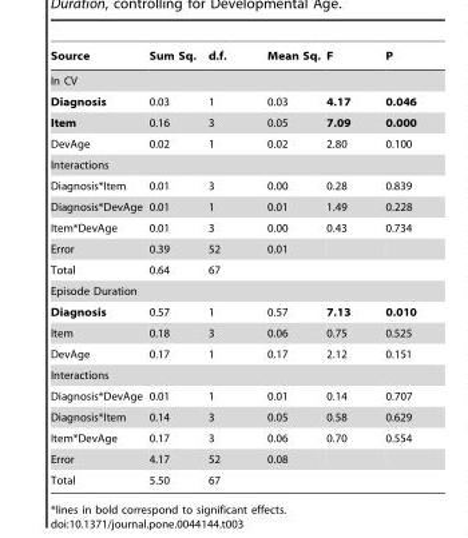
<table><thead><tr><td>Source</td><td>Sum Sq.</td><td>d.f.</td><td>Mean Sq.</td><td>F</td><td>P</td></tr></thead><tbody><tr><td colspan="6">In CV</td></tr><tr><td>Diagnosis</td><td>0.03</td><td>1</td><td>0.03</td><td>4.17</td><td>0.046</td></tr><tr><td>Item</td><td>0.16</td><td>3</td><td>0.05</td><td>7.09</td><td>0.000</td></tr><tr><td>DevAge</td><td>0.02</td><td>1</td><td>0.02</td><td>2.80</td><td>0.100</td></tr><tr><td colspan="6">Interactions</td></tr><tr><td>Diagnosis*Item</td><td>0.01</td><td>3</td><td>0.00</td><td>0.28</td><td>0.839</td></tr><tr><td>Diagnosis*DevAge</td><td>0.01</td><td>1</td><td>0.01</td><td>1.49</td><td>0.228</td></tr><tr><td>Item*DevAge</td><td>0.01</td><td>3</td><td>0.00</td><td>0.43</td><td>0.734</td></tr><tr><td>Error</td><td>0.39</td><td>52</td><td>0.01</td><td></td><td></td></tr><tr><td>Total</td><td>0.64</td><td>67</td><td></td><td></td><td></td></tr><tr><td colspan="6">Episode Duration</td></tr><tr><td>Diagnosis</td><td>0.57</td><td>1</td><td>0.57</td><td>7.13</td><td>0.010</td></tr><tr><td>Item</td><td>0.18</td><td>3</td><td>0.06</td><td>0.75</td><td>0.525</td></tr><tr><td>DevAge</td><td>0.17</td><td>1</td><td>0.17</td><td>2.12</td><td>0.151</td></tr><tr><td colspan="6">Interactions</td></tr><tr><td>Diagnosis*DevAge</td><td>0.01</td><td>1</td><td>0.01</td><td>0.14</td><td>0.707</td></tr><tr><td>Diagnosis*Item</td><td>0.14</td><td>3</td><td>0.05</td><td>0.58</td><td>0.629</td></tr><tr><td>Item*DevAge</td><td>0.17</td><td>3</td><td>0.06</td><td>0.70</td><td>0.554</td></tr><tr><td>Error</td><td>4.17</td><td>52</td><td>0.08</td><td></td><td></td></tr><tr><td>Total</td><td>5.50</td><td>67</td><td></td><td></td><td></td></tr></tbody></table>